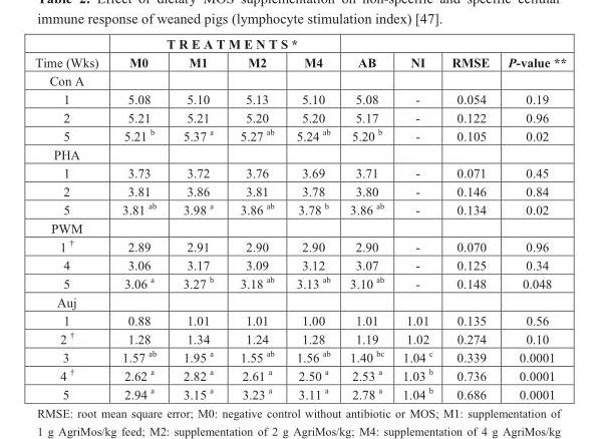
<table><thead><tr><td rowspan="2">Time (Wks)</td><td colspan="4">T R E A T M E N T S *</td><td rowspan="2">AB</td><td rowspan="2">NI</td><td rowspan="2">RMSE</td><td rowspan="2">P-value **</td></tr><tr><td>M0</td><td>M1</td><td>M2</td><td>M4</td></tr></thead><tbody><tr><td colspan="9">Con A</td></tr><tr><td>1</td><td>5.08</td><td>5.10</td><td>5.13</td><td>5.10</td><td>5.08</td><td>-</td><td>0.054</td><td>0.19</td></tr><tr><td>2</td><td>5.21</td><td>5.21</td><td>5.20</td><td>5.20</td><td>5.17</td><td>-</td><td>0.122</td><td>0.96</td></tr><tr><td>5</td><td>5.21 <sup>b</sup></td><td>5.37 <sup>a</sup></td><td>5.27 <sup>ab</sup></td><td>5.24 <sup>ab</sup></td><td>5.20 <sup>b</sup></td><td>-</td><td>0.105</td><td>0.02</td></tr><tr><td colspan="9">PHA</td></tr><tr><td>1</td><td>3.73</td><td>3.72</td><td>3.76</td><td>3.69</td><td>3.71</td><td>-</td><td>0.071</td><td>0.45</td></tr><tr><td>2</td><td>3.81</td><td>3.86</td><td>3.81</td><td>3.78</td><td>3.80</td><td>-</td><td>0.146</td><td>0.84</td></tr><tr><td>5</td><td>3.81 <sup>ab</sup></td><td>3.98 <sup>a</sup></td><td>3.86 <sup>ab</sup></td><td>3.78 <sup>b</sup></td><td>3.86 <sup>ab</sup></td><td>-</td><td>0.134</td><td>0.02</td></tr><tr><td colspan="9">PWM</td></tr><tr><td>1 <sup>†</sup></td><td>2.89</td><td>2.91</td><td>2.90</td><td>2.90</td><td>2.90</td><td>-</td><td>0.070</td><td>0.96</td></tr><tr><td>4</td><td>3.06</td><td>3.17</td><td>3.09</td><td>3.12</td><td>3.07</td><td>-</td><td>0.125</td><td>0.34</td></tr><tr><td>5</td><td>3.06 <sup>a</sup></td><td>3.27 <sup>b</sup></td><td>3.18 <sup>ab</sup></td><td>3.13 <sup>ab</sup></td><td>3.10 <sup>ab</sup></td><td>-</td><td>0.148</td><td>0.048</td></tr><tr><td colspan="9">Auj</td></tr><tr><td>1</td><td>0.88</td><td>1.01</td><td>1.01</td><td>1.00</td><td>1.01</td><td>1.01</td><td>0.135</td><td>0.56</td></tr><tr><td>2 <sup>†</sup></td><td>1.28</td><td>1.34</td><td>1.24</td><td>1.28</td><td>1.19</td><td>1.02</td><td>0.274</td><td>0.10</td></tr><tr><td>3</td><td>1.57 <sup>ab</sup></td><td>1.95 <sup>a</sup></td><td>1.55 <sup>ab</sup></td><td>1.56 <sup>ab</sup></td><td>1.40 <sup>bc</sup></td><td>1.04 <sup>c</sup></td><td>0.339</td><td>0.0001</td></tr><tr><td>4 <sup>†</sup></td><td>2.62 <sup>a</sup></td><td>2.82 <sup>a</sup></td><td>2.61 <sup>a</sup></td><td>2.50 <sup>a</sup></td><td>2.53 <sup>a</sup></td><td>1.03 <sup>b</sup></td><td>0.736</td><td>0.0001</td></tr><tr><td>5</td><td>2.94 <sup>a</sup></td><td>3.15 <sup>a</sup></td><td>3.23 <sup>a</sup></td><td>3.11 <sup>a</sup></td><td>2.78 <sup>a</sup></td><td>1.04 <sup>b</sup></td><td>0.686</td><td>0.0001</td></tr></tbody></table>